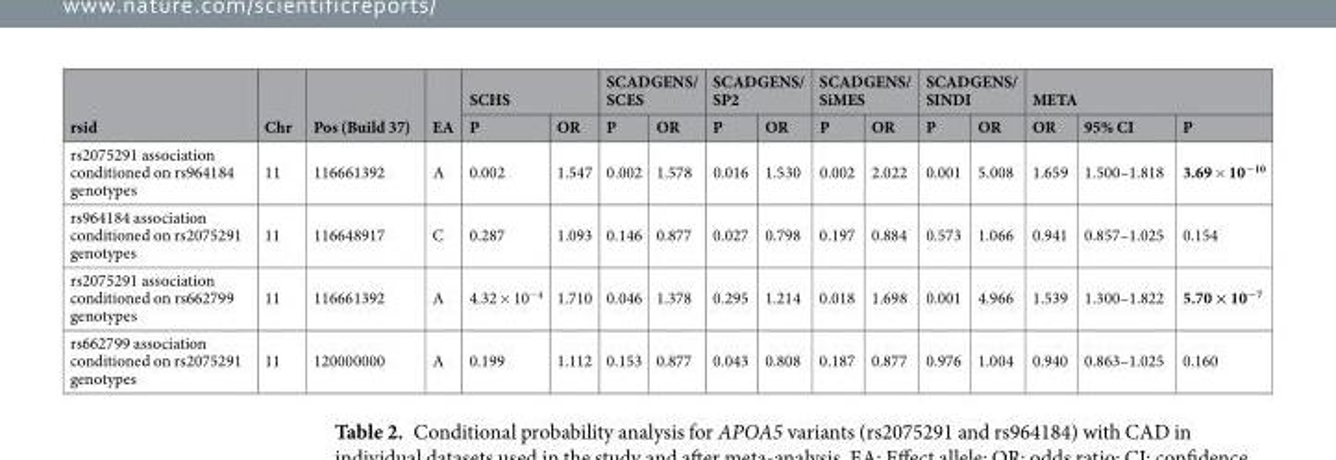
<table><thead><tr><td rowspan="2">rsid</td><td rowspan="2">Chr</td><td rowspan="2">Pos (Build 37)</td><td rowspan="2">EA</td><td colspan="2">SCHS</td><td colspan="2">SCADGENS/ SCES</td><td colspan="2">SCADGENS/ SP2</td><td colspan="2">SCADGENS/ SiMES</td><td colspan="2">SCADGENS/ SINDI</td><td colspan="3">META</td></tr><tr><td>P</td><td>OR</td><td>P</td><td>OR</td><td>P</td><td>OR</td><td>P</td><td>OR</td><td>P</td><td>OR</td><td>OR</td><td>95% CI</td><td>P</td></tr></thead><tbody><tr><td>rs2075291 association conditioned on rs964184 genotypes</td><td>11</td><td>116661392</td><td>A</td><td>0.002</td><td>1.547</td><td>0.002</td><td>1.578</td><td>0.016</td><td>1.530</td><td>0.002</td><td>2.022</td><td>0.001</td><td>5.008</td><td>1.659</td><td>1.500–1.818</td><td>3.69 × 10<sup>−10</sup></td></tr><tr><td>rs964184 association conditioned on rs2075291 genotypes</td><td>11</td><td>116648917</td><td>C</td><td>0.287</td><td>1.093</td><td>0.146</td><td>0.877</td><td>0.027</td><td>0.798</td><td>0.197</td><td>0.884</td><td>0.573</td><td>1.066</td><td>0.941</td><td>0.857–1.025</td><td>0.154</td></tr><tr><td>rs2075291 association conditioned on rs662799 genotypes</td><td>11</td><td>116661392</td><td>A</td><td>4.32 × 10<sup>−4</sup></td><td>1.710</td><td>0.046</td><td>1.378</td><td>0.295</td><td>1.214</td><td>0.018</td><td>1.698</td><td>0.001</td><td>4.966</td><td>1.539</td><td>1.300–1.822</td><td>5.70 × 10<sup>−7</sup></td></tr><tr><td>rs662799 association conditioned on rs2075291 genotypes</td><td>11</td><td>120000000</td><td>A</td><td>0.199</td><td>1.112</td><td>0.153</td><td>0.877</td><td>0.043</td><td>0.808</td><td>0.187</td><td>0.877</td><td>0.976</td><td>1.004</td><td>0.940</td><td>0.863–1.025</td><td>0.160</td></tr></tbody></table>